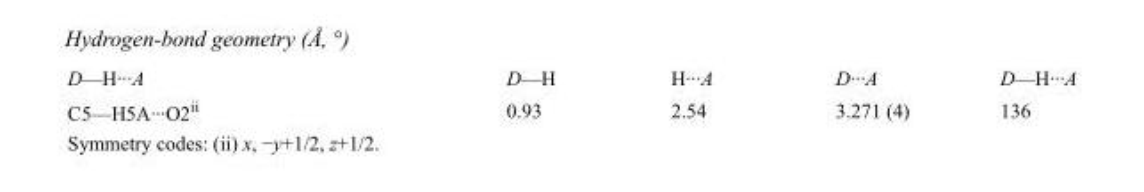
<table><tbody><tr><td>D—H···A</td><td>D—H</td><td>H···A</td><td>D···A</td><td>D—H···A</td></tr><tr><td>C5—H5A···O2<sup>ii</sup></td><td>0.93</td><td>2.54</td><td>3.271 (4)</td><td>136</td></tr></tbody></table>